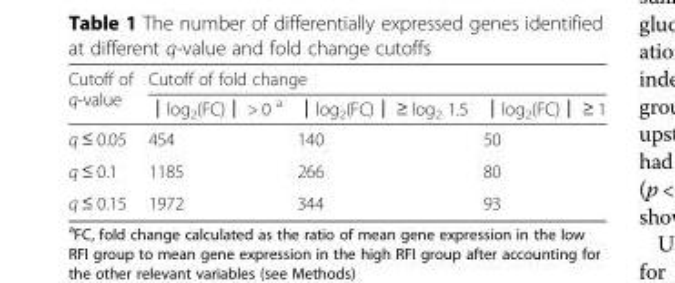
<table><thead><tr><td rowspan="2">Cutoff of q-value</td><td colspan="3">Cutoff of fold change</td></tr><tr><td>│log<sub>2</sub>(FC)│ &gt; 0 <sup>a</sup></td><td>│log<sub>2</sub>(FC)│ ≥ log<sub>2</sub> 1.5</td><td>│log<sub>2</sub>(FC)│ ≥ 1</td></tr></thead><tbody><tr><td>q ≤ 0.05</td><td>454</td><td>140</td><td>50</td></tr><tr><td>q ≤ 0.1</td><td>1185</td><td>266</td><td>80</td></tr><tr><td>q ≤ 0.15</td><td>1972</td><td>344</td><td>93</td></tr></tbody></table>